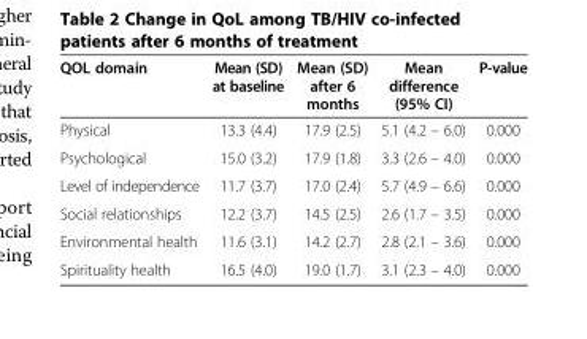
<table><thead><tr><td>QOL domain</td><td>Mean (SD) at baseline</td><td>Mean (SD) after 6 months</td><td>Mean difference (95% CI)</td><td>P-value</td></tr></thead><tbody><tr><td>Physical</td><td>13.3 (4.4)</td><td>17.9 (2.5)</td><td>5.1 (4.2 – 6.0)</td><td>0.000</td></tr><tr><td>Psychological</td><td>15.0 (3.2)</td><td>17.9 (1.8)</td><td>3.3 (2.6 – 4.0)</td><td>0.000</td></tr><tr><td>Level of independence</td><td>11.7 (3.7)</td><td>17.0 (2.4)</td><td>5.7 (4.9 – 6.6)</td><td>0.000</td></tr><tr><td>Social relationships</td><td>12.2 (3.7)</td><td>14.5 (2.5)</td><td>2.6 (1.7 – 3.5)</td><td>0.000</td></tr><tr><td>Environmental health</td><td>11.6 (3.1)</td><td>14.2 (2.7)</td><td>2.8 (2.1 – 3.6)</td><td>0.000</td></tr><tr><td>Spirituality health</td><td>16.5 (4.0)</td><td>19.0 (1.7)</td><td>3.1 (2.3 – 4.0)</td><td>0.000</td></tr></tbody></table>